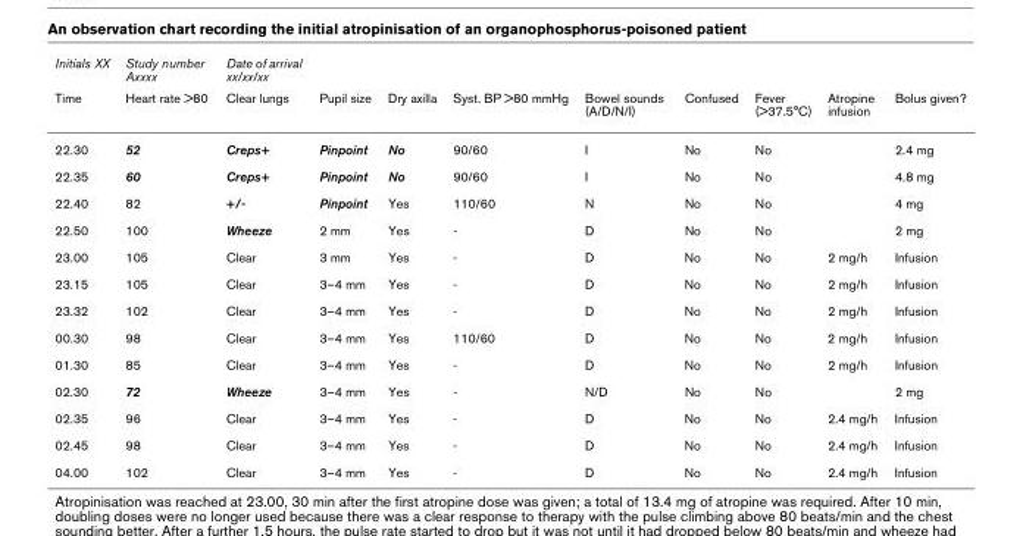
<table><thead><tr><td rowspan="2">Initials XX Time</td><td rowspan="2">Study number Axxxx Heart rate &gt;80</td><td rowspan="2">Date of arrival xx/xx/xx Clear lungs</td><td rowspan="2">Pupil size</td><td rowspan="2">Dry axilla</td><td rowspan="2">Syst. BP &gt;80 mmHg</td><td rowspan="2">Bowel sounds (A/D/N/I)</td><td rowspan="2">Confused</td><td rowspan="2">Fever (&gt;37.5°C)</td><td rowspan="2">Atropine infusion</td><td rowspan="2">Bolus given?</td></tr><tr></tr></thead><tbody><tr><td>22.30</td><td>52</td><td>Creps+</td><td>Pinpoint</td><td>No</td><td>90/60</td><td>I</td><td>No</td><td>No</td><td></td><td>2.4 mg</td></tr><tr><td>22.35</td><td>60</td><td>Creps+</td><td>Pinpoint</td><td>No</td><td>90/60</td><td>I</td><td>No</td><td>No</td><td></td><td>4.8 mg</td></tr><tr><td>22.40</td><td>82</td><td>+/-</td><td>Pinpoint</td><td>Yes</td><td>110/60</td><td>N</td><td>No</td><td>No</td><td></td><td>4 mg</td></tr><tr><td>22.50</td><td>100</td><td>Wheeze</td><td>2 mm</td><td>Yes</td><td>-</td><td>D</td><td>No</td><td>No</td><td></td><td>2 mg</td></tr><tr><td>23.00</td><td>105</td><td>Clear</td><td>3 mm</td><td>Yes</td><td>-</td><td>D</td><td>No</td><td>No</td><td>2 mg/h</td><td>Infusion</td></tr><tr><td>23.15</td><td>105</td><td>Clear</td><td>3–4 mm</td><td>Yes</td><td>-</td><td>D</td><td>No</td><td>No</td><td>2 mg/h</td><td>Infusion</td></tr><tr><td>23.32</td><td>102</td><td>Clear</td><td>3–4 mm</td><td>Yes</td><td>-</td><td>D</td><td>No</td><td>No</td><td>2 mg/h</td><td>Infusion</td></tr><tr><td>00.30</td><td>98</td><td>Clear</td><td>3–4 mm</td><td>Yes</td><td>110/60</td><td>D</td><td>No</td><td>No</td><td>2 mg/h</td><td>Infusion</td></tr><tr><td>01.30</td><td>85</td><td>Clear</td><td>3–4 mm</td><td>Yes</td><td>-</td><td>D</td><td>No</td><td>No</td><td>2 mg/h</td><td>Infusion</td></tr><tr><td>02.30</td><td>72</td><td>Wheeze</td><td>3–4 mm</td><td>Yes</td><td>-</td><td>N/D</td><td>No</td><td>No</td><td></td><td>2 mg</td></tr><tr><td>02.35</td><td>96</td><td>Clear</td><td>3–4 mm</td><td>Yes</td><td>-</td><td>D</td><td>No</td><td>No</td><td>2.4 mg/h</td><td>Infusion</td></tr><tr><td>02.45</td><td>98</td><td>Clear</td><td>3–4 mm</td><td>Yes</td><td>-</td><td>D</td><td>No</td><td>No</td><td>2.4 mg/h</td><td>Infusion</td></tr><tr><td>04.00</td><td>102</td><td>Clear</td><td>3–4 mm</td><td>Yes</td><td>-</td><td>D</td><td>No</td><td>No</td><td>2.4 mg/h</td><td>Infusion</td></tr></tbody></table>